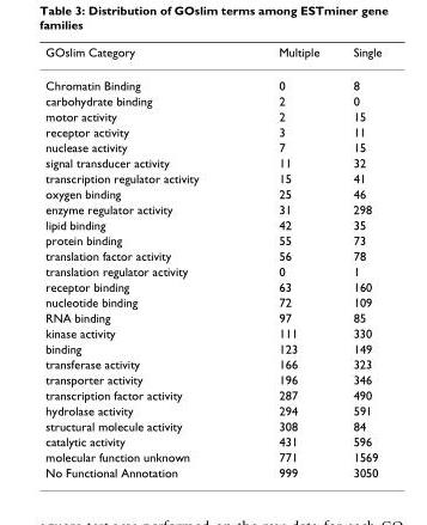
<table><thead><tr><td>GOslim Category</td><td>Multiple</td><td>Single</td></tr></thead><tbody><tr><td>Chromatin Binding</td><td>0</td><td>8</td></tr><tr><td>carbohydrate binding</td><td>2</td><td>0</td></tr><tr><td>motor activity</td><td>2</td><td>15</td></tr><tr><td>receptor activity</td><td>3</td><td>11</td></tr><tr><td>nuclease activity</td><td>7</td><td>15</td></tr><tr><td>signal transducer activity</td><td>11</td><td>32</td></tr><tr><td>transcription regulator activity</td><td>15</td><td>41</td></tr><tr><td>oxygen binding</td><td>25</td><td>46</td></tr><tr><td>enzyme regulator activity</td><td>31</td><td>298</td></tr><tr><td>lipid binding</td><td>42</td><td>35</td></tr><tr><td>protein binding</td><td>55</td><td>73</td></tr><tr><td>translation factor activity</td><td>56</td><td>78</td></tr><tr><td>translation regulator activity</td><td>0</td><td>1</td></tr><tr><td>receptor binding</td><td>63</td><td>160</td></tr><tr><td>nucleotide binding</td><td>72</td><td>109</td></tr><tr><td>RNA binding</td><td>97</td><td>85</td></tr><tr><td>kinase activity</td><td>111</td><td>330</td></tr><tr><td>binding</td><td>123</td><td>149</td></tr><tr><td>transferase activity</td><td>166</td><td>323</td></tr><tr><td>transporter activity</td><td>196</td><td>346</td></tr><tr><td>transcription factor activity</td><td>287</td><td>490</td></tr><tr><td>hydrolase activity</td><td>294</td><td>591</td></tr><tr><td>structural molecule activity</td><td>308</td><td>84</td></tr><tr><td>catalytic activity</td><td>431</td><td>596</td></tr><tr><td>molecular function unknown</td><td>771</td><td>1569</td></tr><tr><td>No Functional Annotation</td><td>999</td><td>3050</td></tr></tbody></table>